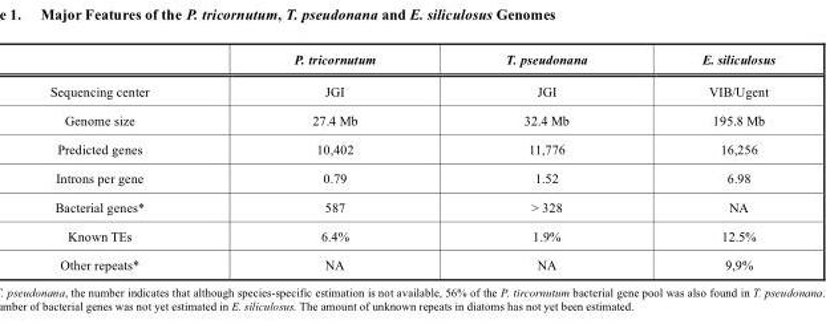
<table><thead><tr><td></td><td>P. tricornutum</td><td>T. pseudonana</td><td>E. siliculosus</td></tr></thead><tbody><tr><td>Sequencing center</td><td>JGI</td><td>JGI</td><td>VIB/Ugent</td></tr><tr><td>Genome size</td><td>27.4 Mb</td><td>32.4 Mb</td><td>195.8 Mb</td></tr><tr><td>Predicted genes</td><td>10,402</td><td>11,776</td><td>16,256</td></tr><tr><td>Introns per gene</td><td>0.79</td><td>1.52</td><td>6.98</td></tr><tr><td>Bacterial genes*</td><td>587</td><td>&gt; 328</td><td>NA</td></tr><tr><td>Known TEs</td><td>6.4%</td><td>1.9%</td><td>12.5%</td></tr><tr><td>Other repeats*</td><td>NA</td><td>NA</td><td>9,9%</td></tr></tbody></table>